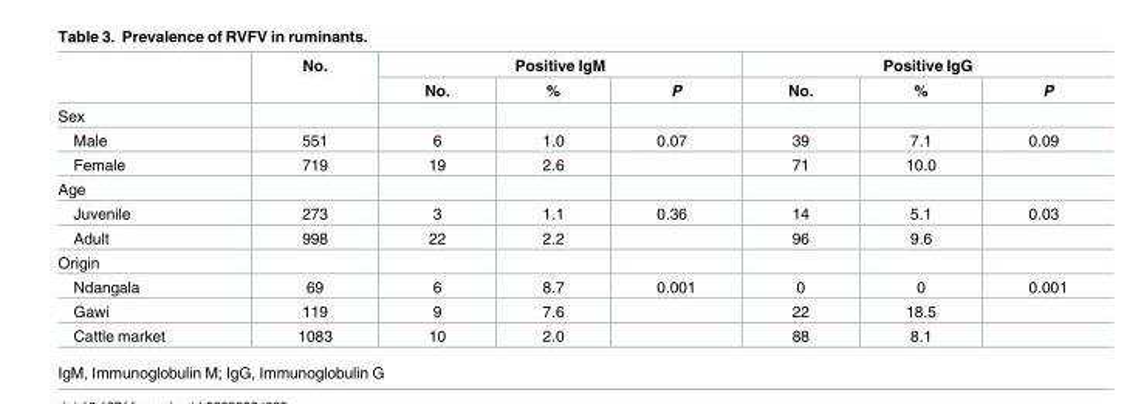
<table><thead><tr><td rowspan="2"></td><td rowspan="2">No.</td><td colspan="3">Positive IgM</td><td colspan="3">Positive IgG</td></tr><tr><td>No.</td><td>%</td><td>P</td><td>No.</td><td>%</td><td>P</td></tr></thead><tbody><tr><td colspan="8">Sex</td></tr><tr><td>Male</td><td>551</td><td>6</td><td>1.0</td><td>0.07</td><td>39</td><td>7.1</td><td>0.09</td></tr><tr><td>Female</td><td>719</td><td>19</td><td>2.6</td><td></td><td>71</td><td>10.0</td><td></td></tr><tr><td colspan="8">Age</td></tr><tr><td>Juvenile</td><td>273</td><td>3</td><td>1.1</td><td>0.36</td><td>14</td><td>5.1</td><td>0.03</td></tr><tr><td>Adult</td><td>998</td><td>22</td><td>2.2</td><td></td><td>96</td><td>9.6</td><td></td></tr><tr><td colspan="8">Origin</td></tr><tr><td>Ndangala</td><td>69</td><td>6</td><td>8.7</td><td>0.001</td><td>0</td><td>0</td><td>0.001</td></tr><tr><td>Gawi</td><td>119</td><td>9</td><td>7.6</td><td></td><td>22</td><td>18.5</td><td></td></tr><tr><td>Cattle market</td><td>1083</td><td>10</td><td>2.0</td><td></td><td>88</td><td>8.1</td><td></td></tr></tbody></table>